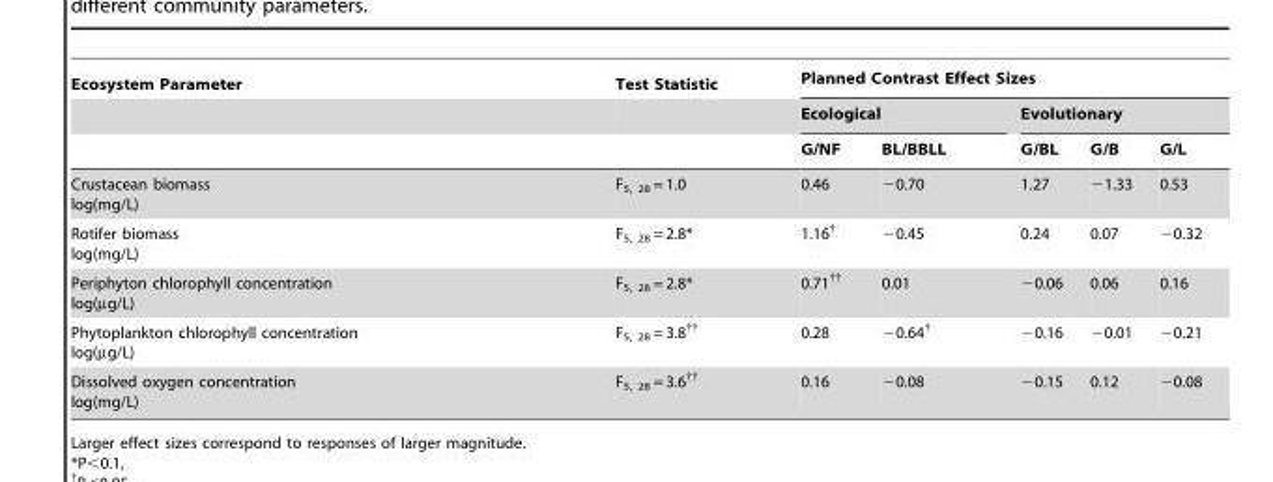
<table><thead><tr><td rowspan="3">Ecosystem Parameter</td><td rowspan="3">Test Statistic</td><td colspan="5">Planned Contrast Effect Sizes</td></tr><tr><td colspan="2">Ecological</td><td colspan="3">Evolutionary</td></tr><tr><td>G/NF</td><td>BL/BBLL</td><td>G/BL</td><td>G/B</td><td>G/L</td></tr></thead><tbody><tr><td>Crustacean biomass log(mg/L)</td><td>F<sub>5, 28</sub> = 1.0</td><td>0.46</td><td>−0.70</td><td>1.27</td><td>−1.33</td><td>0.53</td></tr><tr><td>Rotifer biomass log(mg/L)</td><td>F<sub>5, 28</sub> = 2.8*</td><td>1.16†</td><td>−0.45</td><td>0.24</td><td>0.07</td><td>−0.32</td></tr><tr><td>Periphyton chlorophyll concentration log(µg/L)</td><td>F<sub>5, 28</sub> = 2.8*</td><td>0.71††</td><td>0.01</td><td>−0.06</td><td>0.06</td><td>0.16</td></tr><tr><td>Phytoplankton chlorophyll concentration log(µg/L)</td><td>F<sub>5, 28</sub> = 3.8††</td><td>0.28</td><td>−0.64†</td><td>−0.16</td><td>−0.01</td><td>−0.21</td></tr><tr><td>Dissolved oxygen concentration log(mg/L)</td><td>F<sub>5, 28</sub> = 3.6††</td><td>0.16</td><td>−0.08</td><td>−0.15</td><td>0.12</td><td>−0.08</td></tr></tbody></table>